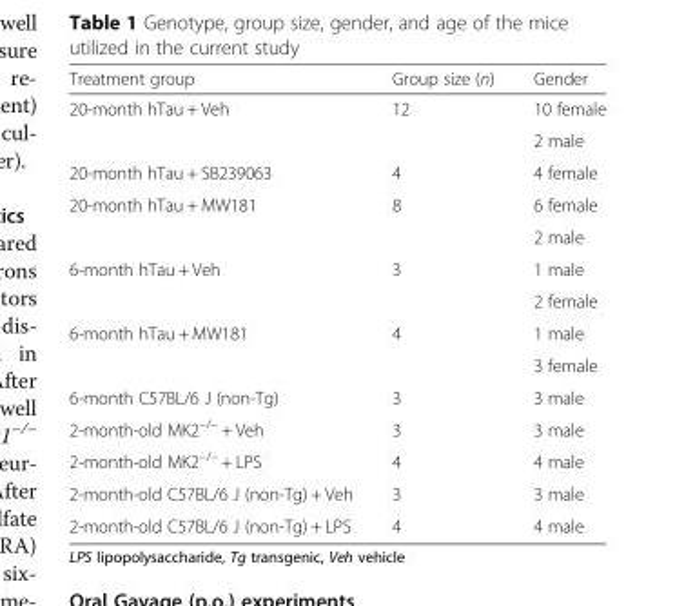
<table><thead><tr><td>Treatment group</td><td>Group size (n)</td><td>Gender</td></tr></thead><tbody><tr><td rowspan="2">20-month hTau + Veh</td><td rowspan="2">12</td><td>10 female</td></tr><tr><td>2 male</td></tr><tr><td>20-month hTau + SB239063</td><td>4</td><td>4 female</td></tr><tr><td rowspan="2">20-month hTau + MW181</td><td rowspan="2">8</td><td>6 female</td></tr><tr><td>2 male</td></tr><tr><td rowspan="2">6-month hTau + Veh</td><td rowspan="2">3</td><td>1 male</td></tr><tr><td>2 female</td></tr><tr><td rowspan="2">6-month hTau + MW181</td><td rowspan="2">4</td><td>1 male</td></tr><tr><td>3 female</td></tr><tr><td>6-month C57BL/6 J (non-Tg)</td><td>3</td><td>3 male</td></tr><tr><td>2-month-old MK2<sup>–/–</sup> + Veh</td><td>3</td><td>3 male</td></tr><tr><td>2-month-old MK2<sup>–/–</sup> + LPS</td><td>4</td><td>4 male</td></tr><tr><td>2-month-old C57BL/6 J (non-Tg) + Veh</td><td>3</td><td>3 male</td></tr><tr><td>2-month-old C57BL/6 J (non-Tg) + LPS</td><td>4</td><td>4 male</td></tr></tbody></table>